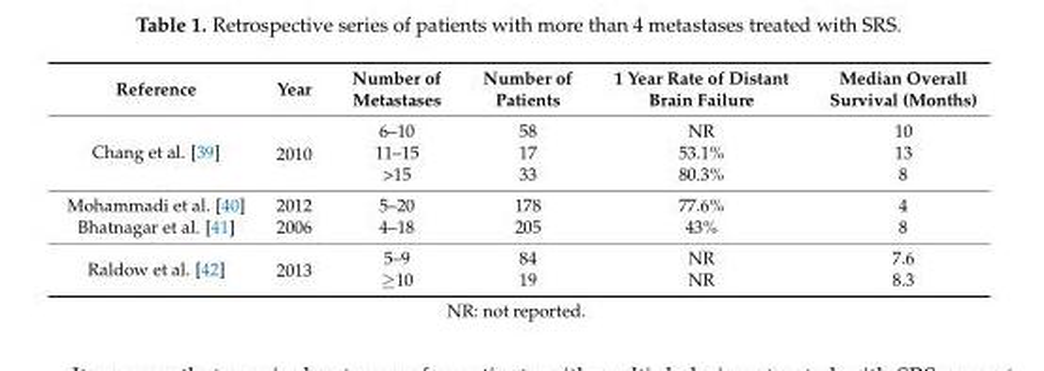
<table><thead><tr><td>Reference</td><td>Year</td><td>Number of Metastases</td><td>Number of Patients</td><td>1 Year Rate of Distant Brain Failure</td><td>Median Overall Survival (Months)</td></tr></thead><tbody><tr><td rowspan="3">Chang et al. [39]</td><td rowspan="3">2010</td><td>6–10</td><td>58</td><td>NR</td><td>10</td></tr><tr><td>11–15</td><td>17</td><td>53.1%</td><td>13</td></tr><tr><td>&gt;15</td><td>33</td><td>80.3%</td><td>8</td></tr><tr><td>Mohammadi et al. [40]</td><td>2012</td><td>5–20</td><td>178</td><td>77.6%</td><td>4</td></tr><tr><td>Bhatnagar et al. [41]</td><td>2006</td><td>4–18</td><td>205</td><td>43%</td><td>8</td></tr><tr><td rowspan="2">Raldow et al. [42]</td><td rowspan="2">2013</td><td>5–9</td><td>84</td><td>NR</td><td>7.6</td></tr><tr><td>≥10</td><td>19</td><td>NR</td><td>8.3</td></tr></tbody></table>